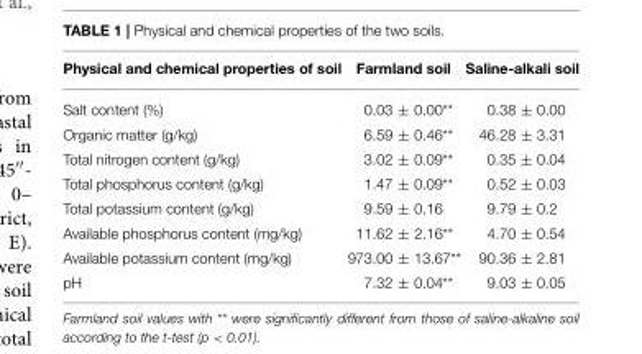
<table><thead><tr><td>Physical and chemical properties of soil</td><td>Farmland soil</td><td>Saline-alkali soil</td></tr></thead><tbody><tr><td>Salt content (%)</td><td>0.03 ± 0.00**</td><td>0.38 ± 0.00</td></tr><tr><td>Organic matter (g/kg)</td><td>6.59 ± 0.46**</td><td>46.28 ± 3.31</td></tr><tr><td>Total nitrogen content (g/kg)</td><td>3.02 ± 0.09**</td><td>0.35 ± 0.04</td></tr><tr><td>Total phosphorus content (g/kg)</td><td>1.47 ± 0.09**</td><td>0.52 ± 0.03</td></tr><tr><td>Total potassium content (g/kg)</td><td>9.59 ± 0.16</td><td>9.79 ± 0.2</td></tr><tr><td>Available phosphorus content (mg/kg)</td><td>11.62 ± 2.16**</td><td>4.70 ± 0.54</td></tr><tr><td>Available potassium content (mg/kg)</td><td>973.00 ± 13.67**</td><td>90.36 ± 2.81</td></tr><tr><td>pH</td><td>7.32 ± 0.04**</td><td>9.03 ± 0.05</td></tr></tbody></table>